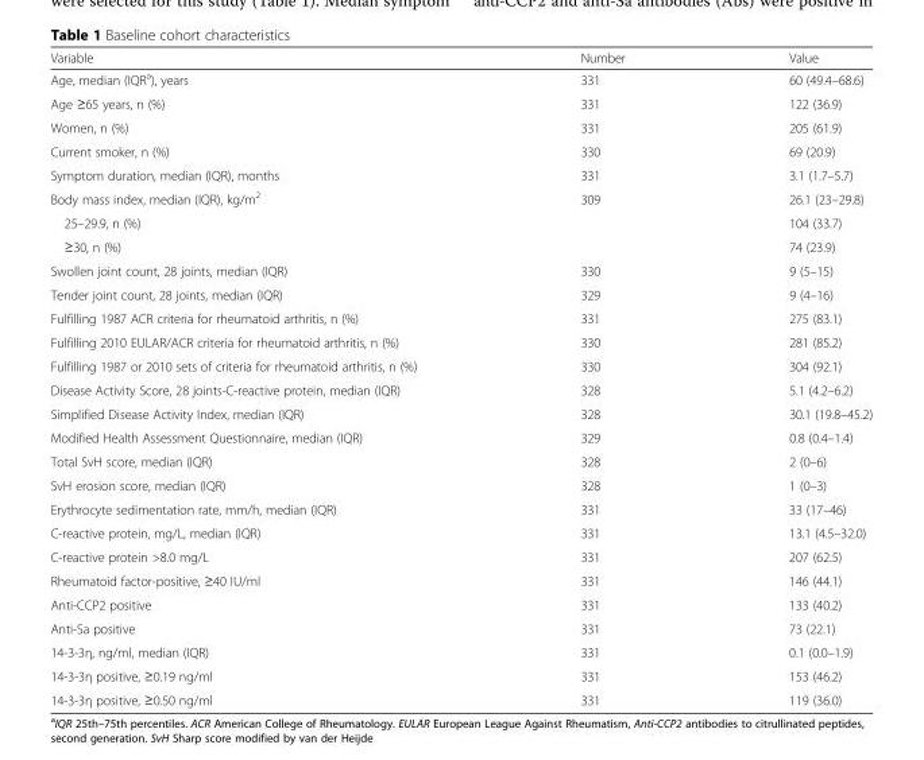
<table><thead><tr><td>Variable</td><td>Number</td><td>Value</td></tr></thead><tbody><tr><td>Age, median (IQR<sup>a</sup>), years</td><td>331</td><td>60 (49.4–68.6)</td></tr><tr><td>Age ≥65 years, n (%)</td><td>331</td><td>122 (36.9)</td></tr><tr><td>Women, n (%)</td><td>331</td><td>205 (61.9)</td></tr><tr><td>Current smoker, n (%)</td><td>330</td><td>69 (20.9)</td></tr><tr><td>Symptom duration, median (IQR), months</td><td>331</td><td>3.1 (1.7–5.7)</td></tr><tr><td>Body mass index, median (IQR), kg/m<sup>2</sup></td><td>309</td><td>26.1 (23–29.8)</td></tr><tr><td>25–29.9, n (%)</td><td></td><td>104 (33.7)</td></tr><tr><td>≥30, n (%)</td><td></td><td>74 (23.9)</td></tr><tr><td>Swollen joint count, 28 joints, median (IQR)</td><td>330</td><td>9 (5–15)</td></tr><tr><td>Tender joint count, 28 joints, median (IQR)</td><td>329</td><td>9 (4–16)</td></tr><tr><td>Fulfilling 1987 ACR criteria for rheumatoid arthritis, n (%)</td><td>331</td><td>275 (83.1)</td></tr><tr><td>Fulfilling 2010 EULAR/ACR criteria for rheumatoid arthritis, n (%)</td><td>330</td><td>281 (85.2)</td></tr><tr><td>Fulfilling 1987 or 2010 sets of criteria for rheumatoid arthritis, n (%)</td><td>330</td><td>304 (92.1)</td></tr><tr><td>Disease Activity Score, 28 joints-C-reactive protein, median (IQR)</td><td>328</td><td>5.1 (4.2–6.2)</td></tr><tr><td>Simplified Disease Activity Index, median (IQR)</td><td>328</td><td>30.1 (19.8–45.2)</td></tr><tr><td>Modified Health Assessment Questionnaire, median (IQR)</td><td>329</td><td>0.8 (0.4–1.4)</td></tr><tr><td>Total SvH score, median (IQR)</td><td>328</td><td>2 (0–6)</td></tr><tr><td>SvH erosion score, median (IQR)</td><td>328</td><td>1 (0–3)</td></tr><tr><td>Erythrocyte sedimentation rate, mm/h, median (IQR)</td><td>331</td><td>33 (17–46)</td></tr><tr><td>C-reactive protein, mg/L, median (IQR)</td><td>331</td><td>13.1 (4.5–32.0)</td></tr><tr><td>C-reactive protein &gt;8.0 mg/L</td><td>331</td><td>207 (62.5)</td></tr><tr><td>Rheumatoid factor-positive, ≥40 IU/ml</td><td>331</td><td>146 (44.1)</td></tr><tr><td>Anti-CCP2 positive</td><td>331</td><td>133 (40.2)</td></tr><tr><td>Anti-Sa positive</td><td>331</td><td>73 (22.1)</td></tr><tr><td>14-3-3η, ng/ml, median (IQR)</td><td>331</td><td>0.1 (0.0–1.9)</td></tr><tr><td>14-3-3η positive, ≥0.19 ng/ml</td><td>331</td><td>153 (46.2)</td></tr><tr><td>14-3-3η positive, ≥0.50 ng/ml</td><td>331</td><td>119 (36.0)</td></tr></tbody></table>